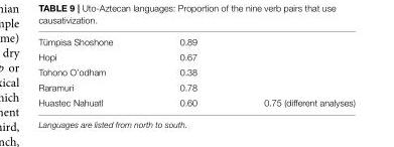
<table><tbody><tr><td>Tümpisa Shoshone</td><td>0.89</td><td></td></tr><tr><td>Hopi</td><td>0.67</td><td></td></tr><tr><td>Tohono O’odham</td><td>0.38</td><td></td></tr><tr><td>Raramuri</td><td>0.78</td><td></td></tr><tr><td>Huastec Nahuatl</td><td>0.60</td><td>0.75 (different analyses)</td></tr></tbody></table>